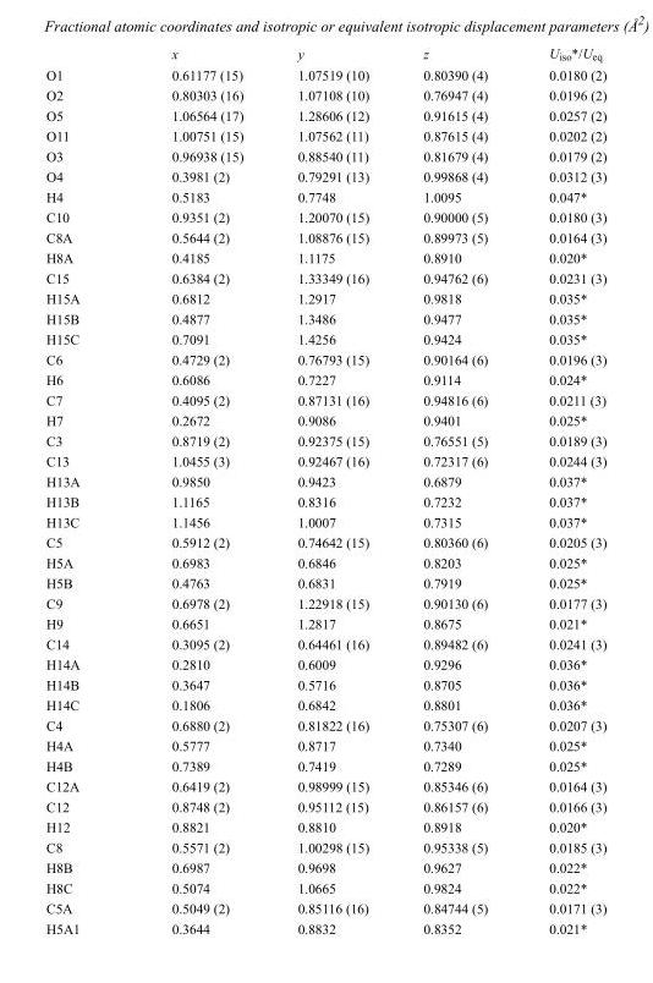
<table><thead><tr><td></td><td>x</td><td>y</td><td>z</td><td>U<sub>iso</sub>*/U<sub>eq</sub></td></tr></thead><tbody><tr><td>O1</td><td>0.61177 (15)</td><td>1.07519 (10)</td><td>0.80390 (4)</td><td>0.0180 (2)</td></tr><tr><td>O2</td><td>0.80303 (16)</td><td>1.07108 (10)</td><td>0.76947 (4)</td><td>0.0196 (2)</td></tr><tr><td>O5</td><td>1.06564 (17)</td><td>1.28606 (12)</td><td>0.91615 (4)</td><td>0.0257 (2)</td></tr><tr><td>O11</td><td>1.00751 (15)</td><td>1.07562 (11)</td><td>0.87615 (4)</td><td>0.0202 (2)</td></tr><tr><td>O3</td><td>0.96938 (15)</td><td>0.88540 (11)</td><td>0.81679 (4)</td><td>0.0179 (2)</td></tr><tr><td>O4</td><td>0.3981 (2)</td><td>0.79291 (13)</td><td>0.99868 (4)</td><td>0.0312 (3)</td></tr><tr><td>H4</td><td>0.5183</td><td>0.7748</td><td>1.0095</td><td>0.047*</td></tr><tr><td>C10</td><td>0.9351 (2)</td><td>1.20070 (15)</td><td>0.90000 (5)</td><td>0.0180 (3)</td></tr><tr><td>C8A</td><td>0.5644 (2)</td><td>1.08876 (15)</td><td>0.89973 (5)</td><td>0.0164 (3)</td></tr><tr><td>H8A</td><td>0.4185</td><td>1.1175</td><td>0.8910</td><td>0.020*</td></tr><tr><td>C15</td><td>0.6384 (2)</td><td>1.33349 (16)</td><td>0.94762 (6)</td><td>0.0231 (3)</td></tr><tr><td>H15A</td><td>0.6812</td><td>1.2917</td><td>0.9818</td><td>0.035*</td></tr><tr><td>H15B</td><td>0.4877</td><td>1.3486</td><td>0.9477</td><td>0.035*</td></tr><tr><td>H15C</td><td>0.7091</td><td>1.4256</td><td>0.9424</td><td>0.035*</td></tr><tr><td>C6</td><td>0.4729 (2)</td><td>0.76793 (15)</td><td>0.90164 (6)</td><td>0.0196 (3)</td></tr><tr><td>H6</td><td>0.6086</td><td>0.7227</td><td>0.9114</td><td>0.024*</td></tr><tr><td>C7</td><td>0.4095 (2)</td><td>0.87131 (16)</td><td>0.94816 (6)</td><td>0.0211 (3)</td></tr><tr><td>H7</td><td>0.2672</td><td>0.9086</td><td>0.9401</td><td>0.025*</td></tr><tr><td>C3</td><td>0.8719 (2)</td><td>0.92375 (15)</td><td>0.76551 (5)</td><td>0.0189 (3)</td></tr><tr><td>C13</td><td>1.0455 (3)</td><td>0.92467 (16)</td><td>0.72317 (6)</td><td>0.0244 (3)</td></tr><tr><td>H13A</td><td>0.9850</td><td>0.9423</td><td>0.6879</td><td>0.037*</td></tr><tr><td>H13B</td><td>1.1165</td><td>0.8316</td><td>0.7232</td><td>0.037*</td></tr><tr><td>H13C</td><td>1.1456</td><td>1.0007</td><td>0.7315</td><td>0.037*</td></tr><tr><td>C5</td><td>0.5912 (2)</td><td>0.74642 (15)</td><td>0.80360 (6)</td><td>0.0205 (3)</td></tr><tr><td>H5A</td><td>0.6983</td><td>0.6846</td><td>0.8203</td><td>0.025*</td></tr><tr><td>H5B</td><td>0.4763</td><td>0.6831</td><td>0.7919</td><td>0.025*</td></tr><tr><td>C9</td><td>0.6978 (2)</td><td>1.22918 (15)</td><td>0.90130 (6)</td><td>0.0177 (3)</td></tr><tr><td>H9</td><td>0.6651</td><td>1.2817</td><td>0.8675</td><td>0.021*</td></tr><tr><td>C14</td><td>0.3095 (2)</td><td>0.64461 (16)</td><td>0.89482 (6)</td><td>0.0241 (3)</td></tr><tr><td>H14A</td><td>0.2810</td><td>0.6009</td><td>0.9296</td><td>0.036*</td></tr><tr><td>H14B</td><td>0.3647</td><td>0.5716</td><td>0.8705</td><td>0.036*</td></tr><tr><td>H14C</td><td>0.1806</td><td>0.6842</td><td>0.8801</td><td>0.036*</td></tr><tr><td>C4</td><td>0.6880 (2)</td><td>0.81822 (16)</td><td>0.75307 (6)</td><td>0.0207 (3)</td></tr><tr><td>H4A</td><td>0.5777</td><td>0.8717</td><td>0.7340</td><td>0.025*</td></tr><tr><td>H4B</td><td>0.7389</td><td>0.7419</td><td>0.7289</td><td>0.025*</td></tr><tr><td>C12A</td><td>0.6419 (2)</td><td>0.98999 (15)</td><td>0.85346 (6)</td><td>0.0164 (3)</td></tr><tr><td>C12</td><td>0.8748 (2)</td><td>0.95112 (15)</td><td>0.86157 (6)</td><td>0.0166 (3)</td></tr><tr><td>H12</td><td>0.8821</td><td>0.8810</td><td>0.8918</td><td>0.020*</td></tr><tr><td>C8</td><td>0.5571 (2)</td><td>1.00298 (15)</td><td>0.95338 (5)</td><td>0.0185 (3)</td></tr><tr><td>H8B</td><td>0.6987</td><td>0.9698</td><td>0.9627</td><td>0.022*</td></tr><tr><td>H8C</td><td>0.5074</td><td>1.0665</td><td>0.9824</td><td>0.022*</td></tr><tr><td>C5A</td><td>0.5049 (2)</td><td>0.85116 (16)</td><td>0.84744 (5)</td><td>0.0171 (3)</td></tr><tr><td>H5A1</td><td>0.3644</td><td>0.8832</td><td>0.8352</td><td>0.021*</td></tr></tbody></table>